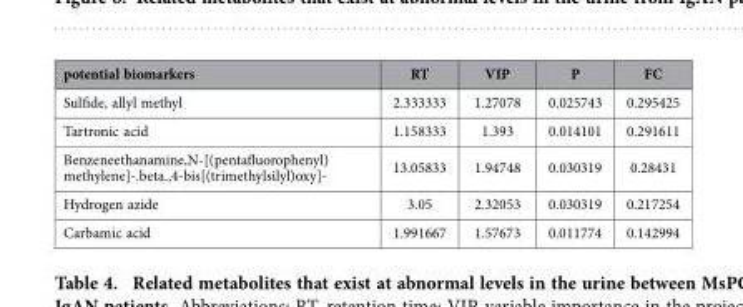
<table><thead><tr><td>potential biomarkers</td><td>RT</td><td>VIP</td><td>P</td><td>FC</td></tr></thead><tbody><tr><td>Sulfide, allyl methyl</td><td>2.333333</td><td>1.27078</td><td>0.025743</td><td>0.295425</td></tr><tr><td>Tartronic acid</td><td>1.158333</td><td>1.393</td><td>0.014101</td><td>0.291611</td></tr><tr><td>Benzeneethanamine,N-[(pentafluorophenyl) methylene]-.beta.,4-bis[(trimethylsilyl)oxy]-</td><td>13.05833</td><td>1.94748</td><td>0.030319</td><td>0.28431</td></tr><tr><td>Hydrogen azide</td><td>3.05</td><td>2.32053</td><td>0.030319</td><td>0.217254</td></tr><tr><td>Carbamic acid</td><td>1.991667</td><td>1.57673</td><td>0.011774</td><td>0.142994</td></tr></tbody></table>